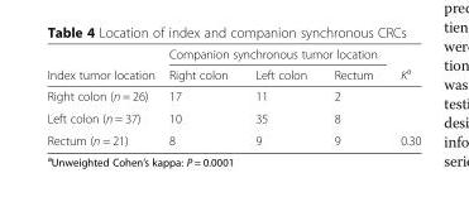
<table><thead><tr><td rowspan="2">Index tumor location</td><td colspan="3">Companion synchronous tumor location</td><td rowspan="2">K<sup>a</sup></td></tr><tr><td>Right colon</td><td>Left colon</td><td>Rectum</td></tr></thead><tbody><tr><td>Right colon (n = 26)</td><td>17</td><td>11</td><td>2</td><td></td></tr><tr><td>Left colon (n = 37)</td><td>10</td><td>35</td><td>8</td><td></td></tr><tr><td>Rectum (n = 21)</td><td>8</td><td>9</td><td>9</td><td>0.30</td></tr></tbody></table>